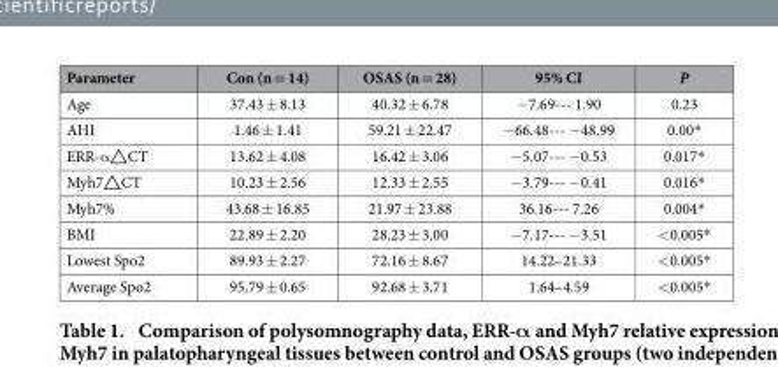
<table><thead><tr><td>Parameter</td><td>Con (n = 14)</td><td>OSAS (n = 28)</td><td>95% CI</td><td>P</td></tr></thead><tbody><tr><td>Age</td><td>37.43 ± 8.13</td><td>40.32 ± 6.78</td><td>− 7.69--- 1.90</td><td>0.23</td></tr><tr><td>AHI</td><td>1.46 ± 1.41</td><td>59.21 ± 22.47</td><td>− 66.48--- − 48.99</td><td>0.00*</td></tr><tr><td>ERR-α △ CT</td><td>13.62 ± 4.08</td><td>16.42 ± 3.06</td><td>− 5.07--- − 0.53</td><td>0.017*</td></tr><tr><td>Myh7△ CT</td><td>10.23 ± 2.56</td><td>12.33 ± 2.55</td><td>− 3.79--- − 0.41</td><td>0.016*</td></tr><tr><td>Myh7%</td><td>43.68 ± 16.85</td><td>21.97 ± 23.88</td><td>36.16--- 7.26</td><td>0.004*</td></tr><tr><td>BMI</td><td>22.89 ± 2.20</td><td>28.23 ± 3.00</td><td>− 7.17--- − 3.51</td><td>&lt; 0.005*</td></tr><tr><td>Lowest Spo2</td><td>89.93 ± 2.27</td><td>72.16 ± 8.67</td><td>14.22–21.33</td><td>&lt; 0.005*</td></tr><tr><td>Average Spo2</td><td>95.79 ± 0.65</td><td>92.68 ± 3.71</td><td>1.64–4.59</td><td>&lt; 0.005*</td></tr></tbody></table>